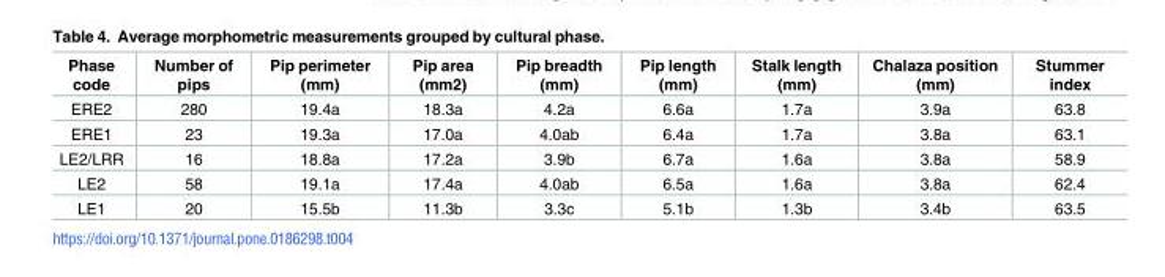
<table><thead><tr><td>Phase code</td><td>Number of pips</td><td>Pip perimeter (mm)</td><td>Pip area (mm2)</td><td>Pip breadth (mm)</td><td>Pip length (mm)</td><td>Stalk length (mm)</td><td>Chalaza position (mm)</td><td>Stummer index</td></tr></thead><tbody><tr><td>ERE2</td><td>280</td><td>19.4a</td><td>18.3a</td><td>4.2a</td><td>6.6a</td><td>1.7a</td><td>3.9a</td><td>63.8</td></tr><tr><td>ERE1</td><td>23</td><td>19.3a</td><td>17.0a</td><td>4.0ab</td><td>6.4a</td><td>1.7a</td><td>3.8a</td><td>63.1</td></tr><tr><td>LE2/LRR</td><td>16</td><td>18.8a</td><td>17.2a</td><td>3.9b</td><td>6.7a</td><td>1.6a</td><td>3.8a</td><td>58.9</td></tr><tr><td>LE2</td><td>58</td><td>19.1a</td><td>17.4a</td><td>4.0ab</td><td>6.5a</td><td>1.6a</td><td>3.8a</td><td>62.4</td></tr><tr><td>LE1</td><td>20</td><td>15.5b</td><td>11.3b</td><td>3.3c</td><td>5.1b</td><td>1.3b</td><td>3.4b</td><td>63.5</td></tr></tbody></table>